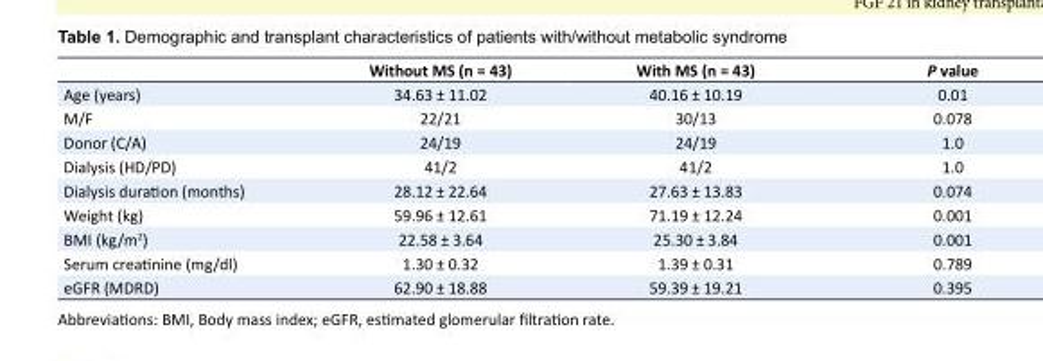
<table><thead><tr><td></td><td>Without MS (n = 43)</td><td>With MS (n = 43)</td><td>P value</td></tr></thead><tbody><tr><td>Age (years)</td><td>34.63 ± 11.02</td><td>40.16 ± 10.19</td><td>0.01</td></tr><tr><td>M/F</td><td>22/21</td><td>30/13</td><td>0.078</td></tr><tr><td>Donor (C/A)</td><td>24/19</td><td>24/19</td><td>1.0</td></tr><tr><td>Dialysis (HD/PD)</td><td>41/2</td><td>41/2</td><td>1.0</td></tr><tr><td>Dialysis duration (months)</td><td>28.12 ± 22.64</td><td>27.63 ± 13.83</td><td>0.074</td></tr><tr><td>Weight (kg)</td><td>59.96 ± 12.61</td><td>71.19 ± 12.24</td><td>0.001</td></tr><tr><td>BMI (kg/m<sup>2</sup>)</td><td>22.58 ± 3.64</td><td>25.30 ± 3.84</td><td>0.001</td></tr><tr><td>Serum creatinine (mg/dl)</td><td>1.30 ± 0.32</td><td>1.39 ± 0.31</td><td>0.789</td></tr><tr><td>eGFR (MDRD)</td><td>62.90 ± 18.88</td><td>59.39 ± 19.21</td><td>0.395</td></tr></tbody></table>